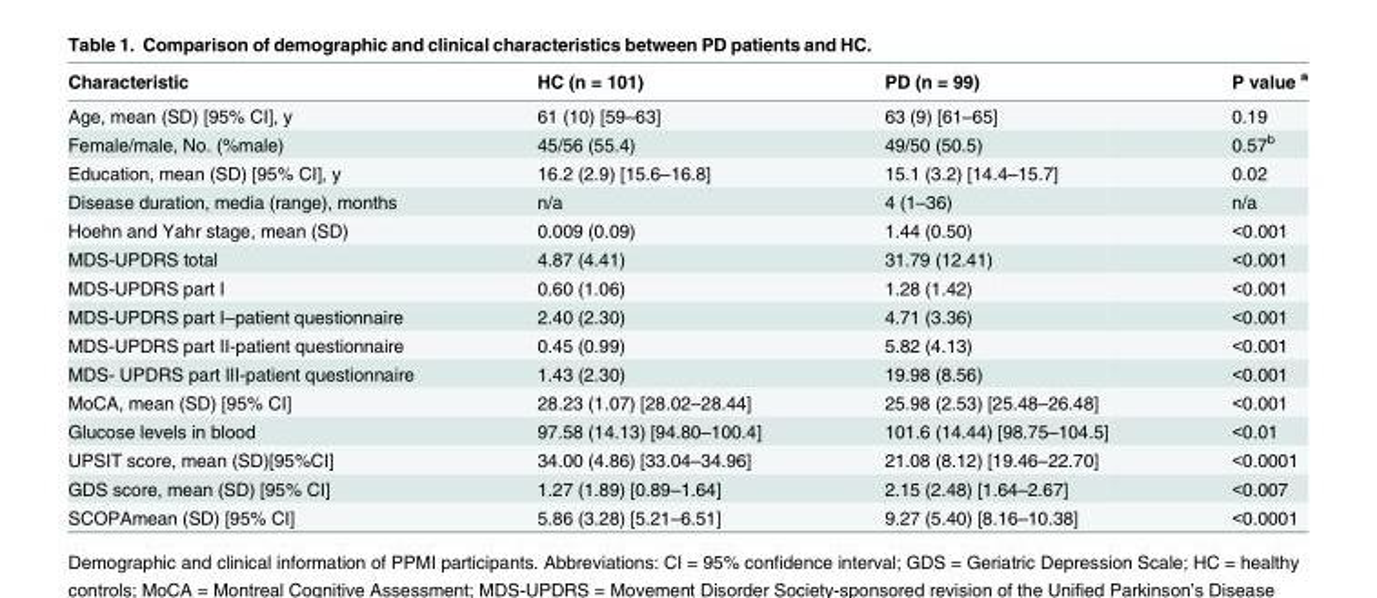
<table><thead><tr><td>Characteristic</td><td>HC (n = 101)</td><td>PD (n = 99)</td><td>P value <sup>a</sup></td></tr></thead><tbody><tr><td>Age, mean (SD) [95% CI], y</td><td>61 (10) [59–63]</td><td>63 (9) [61–65]</td><td>0.19</td></tr><tr><td>Female/male, No. (%male)</td><td>45/56 (55.4)</td><td>49/50 (50.5)</td><td>0.57<sup>b</sup></td></tr><tr><td>Education, mean (SD) [95% CI], y</td><td>16.2 (2.9) [15.6–16.8]</td><td>15.1 (3.2) [14.4–15.7]</td><td>0.02</td></tr><tr><td>Disease duration, media (range), months</td><td>n/a</td><td>4 (1–36)</td><td>n/a</td></tr><tr><td>Hoehn and Yahr stage, mean (SD)</td><td>0.009 (0.09)</td><td>1.44 (0.50)</td><td>&lt;0.001</td></tr><tr><td>MDS-UPDRS total</td><td>4.87 (4.41)</td><td>31.79 (12.41)</td><td>&lt;0.001</td></tr><tr><td>MDS-UPDRS part I</td><td>0.60 (1.06)</td><td>1.28 (1.42)</td><td>&lt;0.001</td></tr><tr><td>MDS-UPDRS part I–patient questionnaire</td><td>2.40 (2.30)</td><td>4.71 (3.36)</td><td>&lt;0.001</td></tr><tr><td>MDS-UPDRS part II-patient questionnaire</td><td>0.45 (0.99)</td><td>5.82 (4.13)</td><td>&lt;0.001</td></tr><tr><td>MDS- UPDRS part III-patient questionnaire</td><td>1.43 (2.30)</td><td>19.98 (8.56)</td><td>&lt;0.001</td></tr><tr><td>MoCA, mean (SD) [95% CI]</td><td>28.23 (1.07) [28.02–28.44]</td><td>25.98 (2.53) [25.48–26.48]</td><td>&lt;0.001</td></tr><tr><td>Glucose levels in blood</td><td>97.58 (14.13) [94.80–100.4]</td><td>101.6 (14.44) [98.75–104.5]</td><td>&lt;0.01</td></tr><tr><td>UPSIT score, mean (SD)[95%CI]</td><td>34.00 (4.86) [33.04–34.96]</td><td>21.08 (8.12) [19.46–22.70]</td><td>&lt;0.0001</td></tr><tr><td>GDS score, mean (SD) [95% CI]</td><td>1.27 (1.89) [0.89–1.64]</td><td>2.15 (2.48) [1.64–2.67]</td><td>&lt;0.007</td></tr><tr><td>SCOPAmean (SD) [95% CI]</td><td>5.86 (3.28) [5.21–6.51]</td><td>9.27 (5.40) [8.16–10.38]</td><td>&lt;0.0001</td></tr></tbody></table>